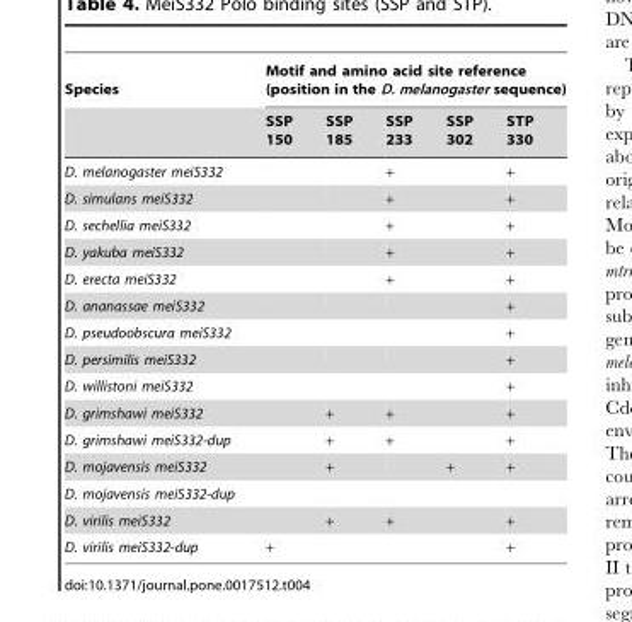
<table><thead><tr><td rowspan="2">Species</td><td colspan="5">Motif and amino acid site reference (position in the D. melanogaster sequence)</td></tr><tr><td>SSP 150</td><td>SSP 185</td><td>SSP 233</td><td>SSP 302</td><td>STP 330</td></tr></thead><tbody><tr><td>D. melanogaster meiS332</td><td></td><td></td><td>+</td><td></td><td>+</td></tr><tr><td>D. simulans meiS332</td><td></td><td></td><td>+</td><td></td><td>+</td></tr><tr><td>D. sechellia meiS332</td><td></td><td></td><td>+</td><td></td><td>+</td></tr><tr><td>D. yakuba meiS332</td><td></td><td></td><td>+</td><td></td><td>+</td></tr><tr><td>D. erecta meiS332</td><td></td><td></td><td>+</td><td></td><td>+</td></tr><tr><td>D. ananassae meiS332</td><td></td><td></td><td></td><td></td><td>+</td></tr><tr><td>D. pseudoobscura meiS332</td><td></td><td></td><td></td><td></td><td>+</td></tr><tr><td>D. persimilis meiS332</td><td></td><td></td><td></td><td></td><td>+</td></tr><tr><td>D. willistoni meiS332</td><td></td><td></td><td></td><td></td><td>+</td></tr><tr><td>D. grimshawi meiS332</td><td></td><td>+</td><td>+</td><td></td><td>+</td></tr><tr><td>D. grimshawi meiS332-dup</td><td></td><td>+</td><td>+</td><td></td><td>+</td></tr><tr><td>D. mojavensis meiS332</td><td></td><td>+</td><td></td><td>+</td><td>+</td></tr><tr><td colspan="6">D. mojavensis meiS332-dup</td></tr><tr><td>D. virilis meiS332</td><td></td><td>+</td><td>+</td><td></td><td>+</td></tr><tr><td>D. virilis meiS332-dup</td><td>+</td><td></td><td></td><td></td><td>+</td></tr></tbody></table>